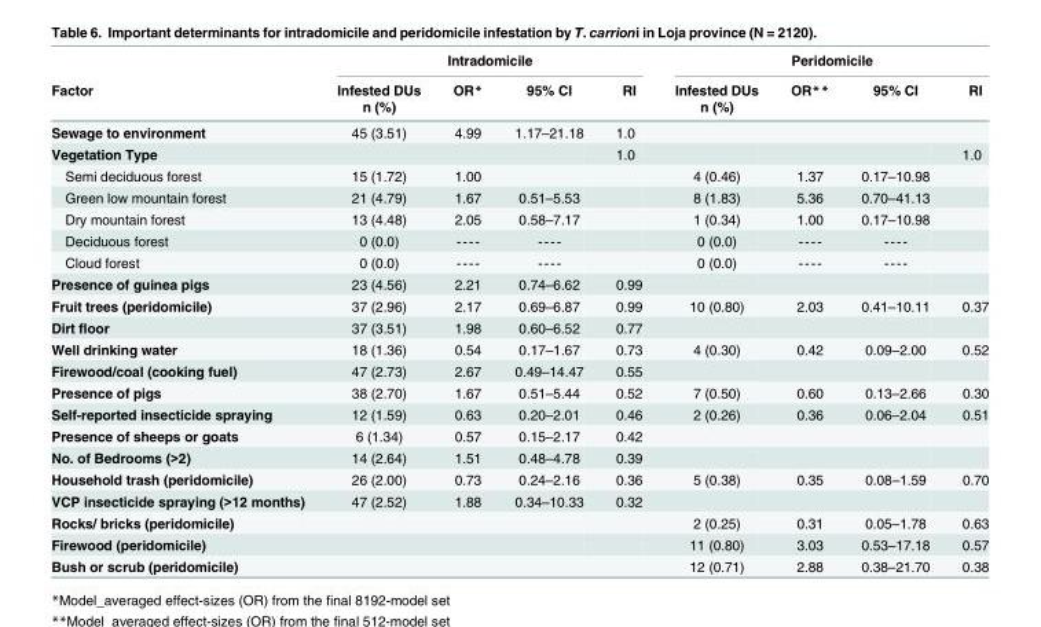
<table><thead><tr><td rowspan="3">Factor</td><td colspan="4">Intradomicile</td><td colspan="4">Peridomicile</td></tr><tr><td rowspan="2">Infested DUs n (%)</td><td rowspan="2">OR*</td><td rowspan="2">95% CI</td><td rowspan="2">RI</td><td rowspan="2">Infested DUs n (%)</td><td rowspan="2">OR**</td><td rowspan="2">95% CI</td><td rowspan="2">RI</td></tr><tr></tr></thead><tbody><tr><td>Sewage to environment</td><td>45 (3.51)</td><td>4.99</td><td>1.17–21.18</td><td>1.0</td><td></td><td></td><td></td><td></td></tr><tr><td>Vegetation Type</td><td></td><td></td><td></td><td>1.0</td><td></td><td></td><td></td><td>1.0</td></tr><tr><td>Semi deciduous forest</td><td>15 (1.72)</td><td>1.00</td><td></td><td></td><td>4 (0.46)</td><td>1.37</td><td>0.17–10.98</td><td></td></tr><tr><td>Green low mountain forest</td><td>21 (4.79)</td><td>1.67</td><td>0.51–5.53</td><td></td><td>8 (1.83)</td><td>5.36</td><td>0.70–41.13</td><td></td></tr><tr><td>Dry mountain forest</td><td>13 (4.48)</td><td>2.05</td><td>0.58–7.17</td><td></td><td>1 (0.34)</td><td>1.00</td><td>0.17–10.98</td><td></td></tr><tr><td>Deciduous forest</td><td>0 (0.0)</td><td>----</td><td>----</td><td></td><td>0 (0.0)</td><td>----</td><td>----</td><td></td></tr><tr><td>Cloud forest</td><td>0 (0.0)</td><td>----</td><td>----</td><td></td><td>0 (0.0)</td><td>----</td><td>----</td><td></td></tr><tr><td>Presence of guinea pigs</td><td>23 (4.56)</td><td>2.21</td><td>0.74–6.62</td><td>0.99</td><td></td><td></td><td></td><td></td></tr><tr><td>Fruit trees (peridomicile)</td><td>37 (2.96)</td><td>2.17</td><td>0.69–6.87</td><td>0.99</td><td>10 (0.80)</td><td>2.03</td><td>0.41–10.11</td><td>0.37</td></tr><tr><td>Dirt floor</td><td>37 (3.51)</td><td>1.98</td><td>0.60–6.52</td><td>0.77</td><td></td><td></td><td></td><td></td></tr><tr><td>Well drinking water</td><td>18 (1.36)</td><td>0.54</td><td>0.17–1.67</td><td>0.73</td><td>4 (0.30)</td><td>0.42</td><td>0.09–2.00</td><td>0.52</td></tr><tr><td>Firewood/coal (cooking fuel)</td><td>47 (2.73)</td><td>2.67</td><td>0.49–14.47</td><td>0.55</td><td></td><td></td><td></td><td></td></tr><tr><td>Presence of pigs</td><td>38 (2.70)</td><td>1.67</td><td>0.51–5.44</td><td>0.52</td><td>7 (0.50)</td><td>0.60</td><td>0.13–2.66</td><td>0.30</td></tr><tr><td>Self-reported insecticide spraying</td><td>12 (1.59)</td><td>0.63</td><td>0.20–2.01</td><td>0.46</td><td>2 (0.26)</td><td>0.36</td><td>0.06–2.04</td><td>0.51</td></tr><tr><td>Presence of sheeps or goats</td><td>6 (1.34)</td><td>0.57</td><td>0.15–2.17</td><td>0.42</td><td></td><td></td><td></td><td></td></tr><tr><td>No. of Bedrooms (&gt;2)</td><td>14 (2.64)</td><td>1.51</td><td>0.48–4.78</td><td>0.39</td><td></td><td></td><td></td><td></td></tr><tr><td>Household trash (peridomicile)</td><td>26 (2.00)</td><td>0.73</td><td>0.24–2.16</td><td>0.36</td><td>5 (0.38)</td><td>0.35</td><td>0.08–1.59</td><td>0.70</td></tr><tr><td>VCP insecticide spraying (&gt;12 months)</td><td>47 (2.52)</td><td>1.88</td><td>0.34–10.33</td><td>0.32</td><td></td><td></td><td></td><td></td></tr><tr><td>Rocks/ bricks (peridomicile)</td><td></td><td></td><td></td><td></td><td>2 (0.25)</td><td>0.31</td><td>0.05–1.78</td><td>0.63</td></tr><tr><td>Firewood (peridomicile)</td><td></td><td></td><td></td><td></td><td>11 (0.80)</td><td>3.03</td><td>0.53–17.18</td><td>0.57</td></tr><tr><td>Bush or scrub (peridomicile)</td><td></td><td></td><td></td><td></td><td>12 (0.71)</td><td>2.88</td><td>0.38–21.70</td><td>0.38</td></tr></tbody></table>